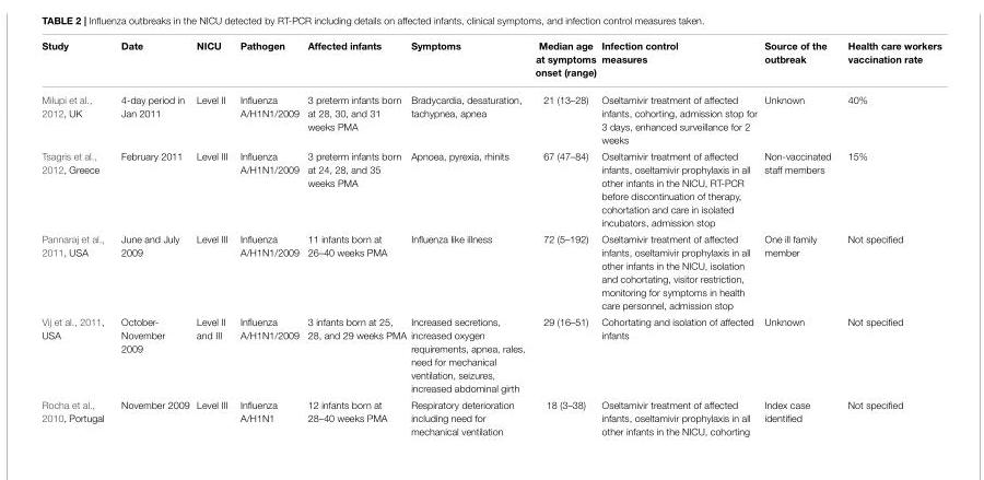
<table><thead><tr><td>Study</td><td>Date</td><td>NICU</td><td>Pathogen</td><td>Affected infants</td><td>Symptoms</td><td>Median age at symptoms onset (range)</td><td>Infection control measures</td><td>Source of the outbreak</td><td>Health care workers vaccination rate</td></tr></thead><tbody><tr><td>Milupi et al., 2012, UK</td><td>4-day period in Jan 2011</td><td>Level II</td><td>Influenza A/H1N1/2009</td><td>3 preterm infants born at 28, 30, and 31 weeks PMA</td><td>Bradycardia, desaturation, tachypnea, apnea</td><td>21 (13–28)</td><td>Oseltamivir treatment of affected infants, cohorting, admission stop for 3 days, enhanced surveillance for 2 weeks</td><td>Unknown</td><td>40%</td></tr><tr><td>Tsagris et al., 2012, Greece</td><td>February 2011</td><td>Level III</td><td>Influenza A/H1N1/2009</td><td>3 preterm infants born at 24, 28, and 35 weeks PMA</td><td>Apnoea, pyrexia, rhinits</td><td>67 (47–84)</td><td>Oseltamivir treatment of affected infants, oseltamivir prophylaxis in all other infants in the NICU, RT-PCR before discontinuation of therapy, cohortation and care in isolated incubators, admission stop</td><td>Non-vaccinated staff members</td><td>15%</td></tr><tr><td>Pannaraj et al., 2011, USA</td><td>June and July 2009</td><td>Level III</td><td>Influenza A/H1N1/2009</td><td>11 infants born at 26–40 weeks PMA</td><td>Influenza like illness</td><td>72 (5–192)</td><td>Oseltamivir treatment of affected infants, oseltamivir prophylaxis in all other infants in the NICU, isolation and cohortating, visitor restriction, monitoring for symptoms in health care personnel, admission stop</td><td>One ill family member</td><td>Not specified</td></tr><tr><td>Vij et al., 2011, USA</td><td>October- November 2009</td><td>Level II and III</td><td>Influenza A/H1N1/2009</td><td>3 infants born at 25, 28, and 29 weeks PMA</td><td>Increased secretions, increased oxygen requirements, apnea, rales, need for mechanical ventilation, seizures, increased abdominal girth</td><td>29 (16–51)</td><td>Cohortating and isolation of affected infants</td><td>Unknown</td><td>Not specified</td></tr><tr><td>Rocha et al., 2010, Portugal</td><td>November 2009</td><td>Level III</td><td>Influenza A/H1N1</td><td>12 infants born at 28–40 weeks PMA</td><td>Respiratory deterioration including need for mechanical ventilation</td><td>18 (3–38)</td><td>Oseltamivir treatment of affected infants, oseltamivir prophylaxis in all other infants in the NICU, cohorting</td><td>Index case identified</td><td>Not specified</td></tr></tbody></table>